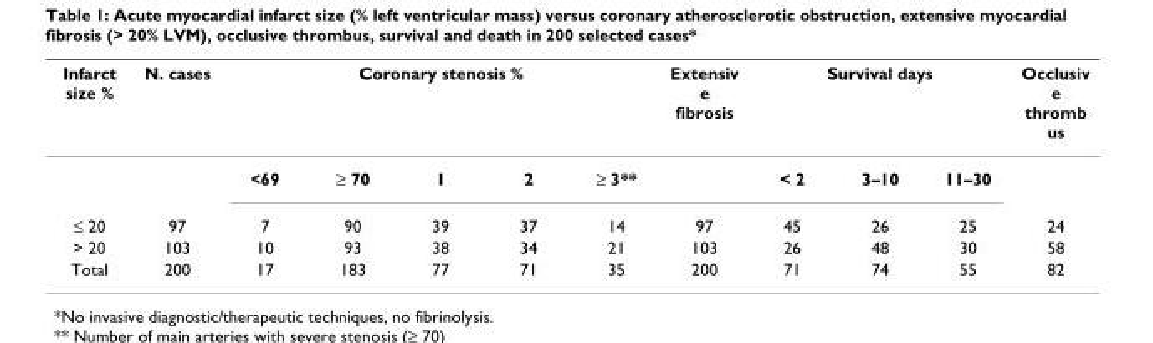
<table><thead><tr><td rowspan="2">Infarct size %</td><td rowspan="2">N. cases</td><td colspan="5">Coronary stenosis %</td><td rowspan="2">Extensiv e fibrosis</td><td colspan="3">Survival days</td><td rowspan="2">Occlusiv e thromb us</td></tr><tr><td>&lt;69</td><td>≥ 70</td><td>1</td><td>2</td><td>≥ 3**</td><td>&lt; 2</td><td>3–10</td><td>11–30</td></tr></thead><tbody><tr><td>≤ 20</td><td>97</td><td>7</td><td>90</td><td>39</td><td>37</td><td>14</td><td>97</td><td>45</td><td>26</td><td>25</td><td>24</td></tr><tr><td>&gt; 20</td><td>103</td><td>10</td><td>93</td><td>38</td><td>34</td><td>21</td><td>103</td><td>26</td><td>48</td><td>30</td><td>58</td></tr><tr><td>Total</td><td>200</td><td>17</td><td>183</td><td>77</td><td>71</td><td>35</td><td>200</td><td>71</td><td>74</td><td>55</td><td>82</td></tr></tbody></table>